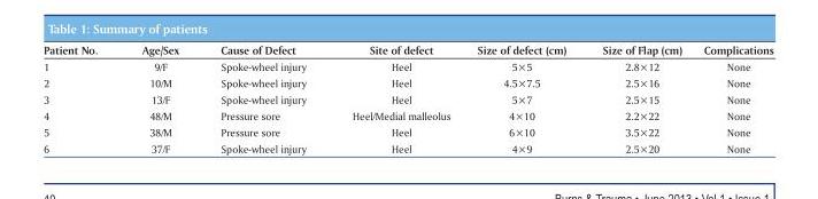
<table><thead><tr><td>Patient No.</td><td>Age/Sex</td><td>Cause of Defect</td><td>Site of defect</td><td>Size of defect (cm)</td><td>Size of Flap (cm)</td><td>Complications</td></tr></thead><tbody><tr><td>1</td><td>9/F</td><td>Spoke-wheel injury</td><td>Heel</td><td>5×5</td><td>2.8×12</td><td>None</td></tr><tr><td>2</td><td>10/M</td><td>Spoke-wheel injury</td><td>Heel</td><td>4.5×7.5</td><td>2.5×16</td><td>None</td></tr><tr><td>3</td><td>13/F</td><td>Spoke-wheel injury</td><td>Heel</td><td>5×7</td><td>2.5×15</td><td>None</td></tr><tr><td>4</td><td>48/M</td><td>Pressure sore</td><td>Heel/Medial malleolus</td><td>4×10</td><td>2.2×22</td><td>None</td></tr><tr><td>5</td><td>38/M</td><td>Pressure sore</td><td>Heel</td><td>6×10</td><td>3.5×22</td><td>None</td></tr><tr><td>6</td><td>37/F</td><td>Spoke-wheel injury</td><td>Heel</td><td>4×9</td><td>2.5×20</td><td>None</td></tr></tbody></table>